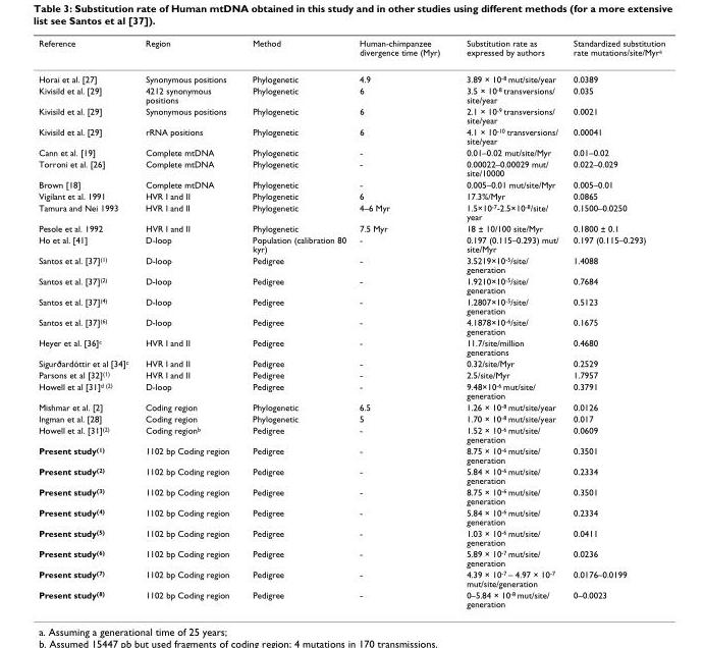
<table><thead><tr><td>Reference</td><td>Region</td><td>Method</td><td>Human-chimpanzee divergence time (Myr)</td><td>Substitution rate as expressed by authors</td><td>Standardized substitution rate mutations/site/Myr<sup>a</sup></td></tr></thead><tbody><tr><td>Horai et al. [27]</td><td>Synonymous positions</td><td>Phylogenetic</td><td>4.9</td><td>3.89 × 10<sup>-8</sup> mut/site/year</td><td>0.0389</td></tr><tr><td>Kivisild et al. [29]</td><td>4212 synonymous positions</td><td>Phylogenetic</td><td>6</td><td>3.5 × 10<sup>-8</sup> transversions/ site/year</td><td>0.035</td></tr><tr><td>Kivisild et al. [29]</td><td>Synonymous positions</td><td>Phylogenetic</td><td>6</td><td>2.1 × 10<sup>-9</sup> transversions/ site/year</td><td>0.0021</td></tr><tr><td>Kivisild et al. [29]</td><td>rRNA positions</td><td>Phylogenetic</td><td>6</td><td>4.1 × 10<sup>-10</sup> transversions/ site/year</td><td>0.00041</td></tr><tr><td>Cann et al. [19]</td><td>Complete mtDNA</td><td>Phylogenetic</td><td>-</td><td>0.01–0.02 mut/site/Myr</td><td>0.01–0.02</td></tr><tr><td>Torroni et al. [26]</td><td>Complete mtDNA</td><td>Phylogenetic</td><td>-</td><td>0.00022–0.00029 mut/ site/10000</td><td>0.022–0.029</td></tr><tr><td>Brown [18]</td><td>Complete mtDNA</td><td>Phylogenetic</td><td>-</td><td>0.005–0.01 mut/site/Myr</td><td>0.005–0.01</td></tr><tr><td>Vigilant et al. 1991</td><td>HVR I and II</td><td>Phylogenetic</td><td>6</td><td>17.3%/Myr</td><td>0.0865</td></tr><tr><td>Tamura and Nei 1993</td><td>HVR I and II</td><td>Phylogenetic</td><td>4–6 Myr</td><td>1.5×10<sup>-7</sup>-2.5×10<sup>-8</sup>/site/ year</td><td>0.1500–0.0250</td></tr><tr><td>Pesole et al. 1992</td><td>HVR I and II</td><td>Phylogenetic</td><td>7.5 Myr</td><td>18 ± 10/100 site/Myr</td><td>0.1800 ± 0.1</td></tr><tr><td>Ho et al. [41]</td><td>D-loop</td><td>Population (calibration 80 kyr)</td><td>-</td><td>0.197 (0.115–0.293) mut/ site/Myr</td><td>0.197 (0.115–0.293)</td></tr><tr><td>Santos et al. [37]<sup>(1)</sup></td><td>D-loop</td><td>Pedigree</td><td>-</td><td>3.5219×10<sup>-5</sup>/site/ generation</td><td>1.4088</td></tr><tr><td>Santos et al. [37]<sup>(2)</sup></td><td>D-loop</td><td>Pedigree</td><td>-</td><td>1.9210×10<sup>-5</sup>/site/ generation</td><td>0.7684</td></tr><tr><td>Santos et al. [37]<sup>(4)</sup></td><td>D-loop</td><td>Pedigree</td><td>-</td><td>1.2807×10<sup>-5</sup>/site/ generation</td><td>0.5123</td></tr><tr><td>Santos et al. [37]<sup>(6)</sup></td><td>D-loop</td><td>Pedigree</td><td>-</td><td>4.1878×10<sup>-6</sup>/site/ generation</td><td>0.1675</td></tr><tr><td>Heyer et al. [36]<sup>c</sup></td><td>HVR I and II</td><td>Pedigree</td><td>-</td><td>11.7/site/million generations</td><td>0.4680</td></tr><tr><td>Sigurðardóttir et al [34]<sup>c</sup></td><td>HVR I and II</td><td>Pedigree</td><td>-</td><td>0.32/site/Myr</td><td>0.2529</td></tr><tr><td>Parsons et al [32]<sup>(1)</sup></td><td>HVR I and II</td><td>Pedigree</td><td>-</td><td>2.5/site/Myr</td><td>1.7957</td></tr><tr><td>Howell et al [31]<sup>d (2)</sup></td><td>D-loop</td><td>Pedigree</td><td>-</td><td>9.48×10<sup>-6</sup> mut/site/ generation</td><td>0.3791</td></tr><tr><td>Mishmar et al. [2]</td><td>Coding region</td><td>Phylogenetic</td><td>6.5</td><td>1.26 × 10<sup>-8</sup> mut/site/year</td><td>0.0126</td></tr><tr><td>Ingman et al. [28]</td><td>Coding region</td><td>Phylogenetic</td><td>5</td><td>1.70 × 10<sup>-8</sup> mut/site/year</td><td>0.017</td></tr><tr><td>Howell et al. [31]<sup>(2)</sup></td><td>Coding region<sup>b</sup></td><td>Pedigree</td><td>-</td><td>1.52 × 10<sup>-6</sup> mut/site/ generation</td><td>0.0609</td></tr><tr><td>Present study<sup>(1)</sup></td><td>1102 bp Coding region</td><td>Pedigree</td><td>-</td><td>8.75 × 10<sup>-6</sup> mut/site/ generation</td><td>0.3501</td></tr><tr><td>Present study<sup>(2)</sup></td><td>1102 bp Coding region</td><td>Pedigree</td><td>-</td><td>5.84 × 10<sup>-6</sup> mut/site/ generation</td><td>0.2334</td></tr><tr><td>Present study<sup>(3)</sup></td><td>1102 bp Coding region</td><td>Pedigree</td><td>-</td><td>8.75 × 10<sup>-6</sup> mut/site/ generation</td><td>0.3501</td></tr><tr><td>Present study<sup>(4)</sup></td><td>1102 bp Coding region</td><td>Pedigree</td><td>-</td><td>5.84 × 10<sup>-6</sup> mut/site/ generation</td><td>0.2334</td></tr><tr><td>Present study<sup>(5)</sup></td><td>1102 bp Coding region</td><td>Pedigree</td><td>-</td><td>1.03 × 10<sup>-6</sup> mut/site/ generation</td><td>0.0411</td></tr><tr><td>Present study<sup>(6)</sup></td><td>1102 bp Coding region</td><td>Pedigree</td><td>-</td><td>5.89 × 10<sup>-7</sup> mut/site/ generation</td><td>0.0236</td></tr><tr><td>Present study<sup>(7)</sup></td><td>1102 bp Coding region</td><td>Pedigree</td><td>-</td><td>4.39 × 10<sup>-7</sup> – 4.97 × 10<sup>-7</sup> mut/site/generation</td><td>0.0176–0.0199</td></tr><tr><td>Present study<sup>(8)</sup></td><td>1102 bp Coding region</td><td>Pedigree</td><td>-</td><td>0–5.84 × 10<sup>-8</sup> mut/site/ generation</td><td>0–0.0023</td></tr></tbody></table>